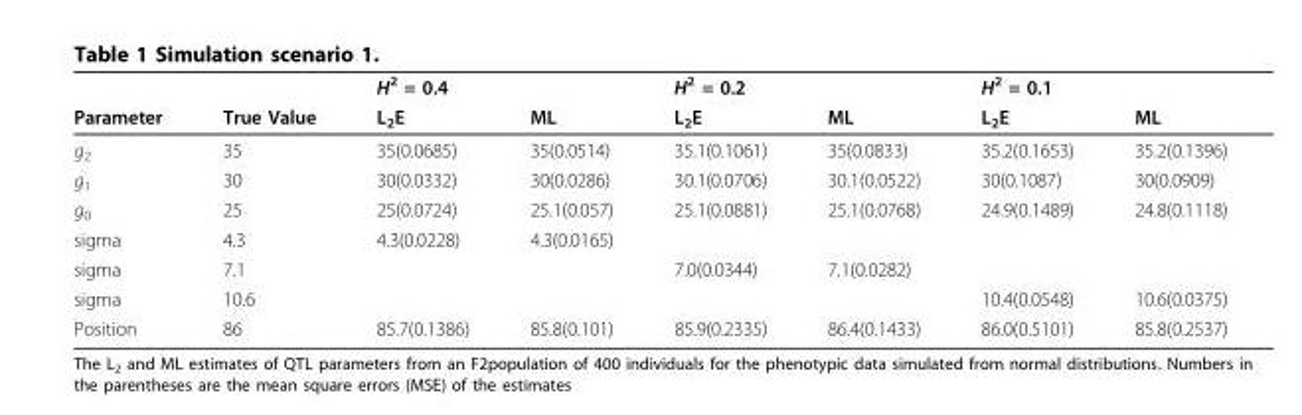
<table><thead><tr><td rowspan="2">Parameter</td><td rowspan="2">True Value</td><td rowspan="2">H<sup>2</sup> = 0.4 L<sub>2</sub>E</td><td rowspan="2">ML</td><td rowspan="2">H<sup>2</sup> = 0.2 L<sub>2</sub>E</td><td rowspan="2">ML</td><td rowspan="2">H<sup>2</sup> = 0.1 L<sub>2</sub>E</td><td rowspan="2">ML</td></tr><tr></tr></thead><tbody><tr><td>g<sub>2</sub></td><td>35</td><td>35(0.0685)</td><td>35(0.0514)</td><td>35.1(0.1061)</td><td>35(0.0833)</td><td>35.2(0.1653)</td><td>35.2(0.1396)</td></tr><tr><td>g<sub>1</sub></td><td>30</td><td>30(0.0332)</td><td>30(0.0286)</td><td>30.1(0.0706)</td><td>30.1(0.0522)</td><td>30(0.1087)</td><td>30(0.0909)</td></tr><tr><td>g<sub>0</sub></td><td>25</td><td>25(0.0724)</td><td>25.1(0.057)</td><td>25.1(0.0881)</td><td>25.1(0.0768)</td><td>24.9(0.1489)</td><td>24.8(0.1118)</td></tr><tr><td>sigma</td><td>4.3</td><td>4.3(0.0228)</td><td>4.3(0.0165)</td><td></td><td></td><td></td><td></td></tr><tr><td>sigma</td><td>7.1</td><td></td><td></td><td>7.0(0.0344)</td><td>7.1(0.0282)</td><td></td><td></td></tr><tr><td>sigma</td><td>10.6</td><td></td><td></td><td></td><td></td><td>10.4(0.0548)</td><td>10.6(0.0375)</td></tr><tr><td>Position</td><td>86</td><td>85.7(0.1386)</td><td>85.8(0.101)</td><td>85.9(0.2335)</td><td>86.4(0.1433)</td><td>86.0(0.5101)</td><td>85.8(0.2537)</td></tr></tbody></table>